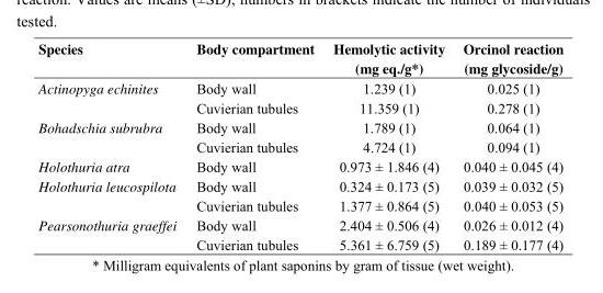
<table><thead><tr><td>Species</td><td>Body compartment</td><td>Hemolytic activity (mg eq./g*)</td><td>Orcinol reaction (mg glycoside/g)</td></tr></thead><tbody><tr><td rowspan="2">Actinopyga echinites</td><td>Body wall</td><td>1.239 (1)</td><td>0.025 (1)</td></tr><tr><td>Cuvierian tubules</td><td>11.359 (1)</td><td>0.278 (1)</td></tr><tr><td rowspan="2">Bohadschia subrubra</td><td>Body wall</td><td>1.789 (1)</td><td>0.064 (1)</td></tr><tr><td>Cuvierian tubules</td><td>4.724 (1)</td><td>0.094 (1)</td></tr><tr><td>Holothuria atra</td><td>Body wall</td><td>0.973 ± 1.846 (4)</td><td>0.040 ± 0.045 (4)</td></tr><tr><td rowspan="2">Holothuria leucospilota</td><td>Body wall</td><td>0.324 ± 0.173 (5)</td><td>0.039 ± 0.032 (5)</td></tr><tr><td>Cuvierian tubules</td><td>1.377 ± 0.864 (5)</td><td>0.040 ± 0.053 (5)</td></tr><tr><td rowspan="2">Pearsonothuria graeffei</td><td>Body wall</td><td>2.404 ± 0.506 (4)</td><td>0.026 ± 0.012 (4)</td></tr><tr><td>Cuvierian tubules</td><td>5.361 ± 6.759 (5)</td><td>0.189 ± 0.177 (4)</td></tr></tbody></table>